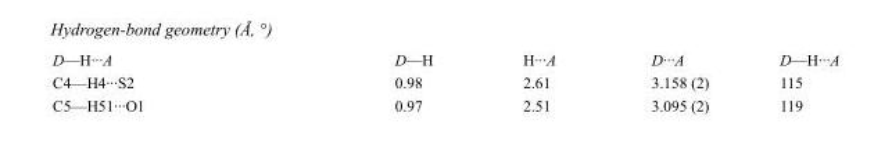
<table><tbody><tr><td>D—H···A</td><td>D—H</td><td>H···A</td><td>D···A</td><td>D—H···A</td></tr><tr><td>C4—H4···S2</td><td>0.98</td><td>2.61</td><td>3.158 (2)</td><td>115</td></tr><tr><td>C5—H51···O1</td><td>0.97</td><td>2.51</td><td>3.095 (2)</td><td>119</td></tr></tbody></table>